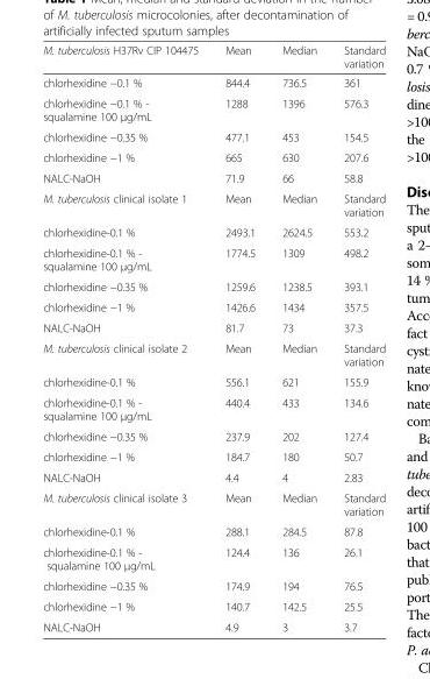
<table><thead><tr><td>M. tuberculosis H37Rv CIP 104475</td><td>Mean</td><td>Median</td><td>Standard variation</td></tr></thead><tbody><tr><td>chlorhexidine −0.1 %</td><td>844.4</td><td>736.5</td><td>361</td></tr><tr><td>chlorhexidine −0.1 % - squalamine 100 μg/mL</td><td>1288</td><td>1396</td><td>576.3</td></tr><tr><td>chlorhexidine −0.35 %</td><td>477.1</td><td>453</td><td>154.5</td></tr><tr><td>chlorhexidine −1 %</td><td>665</td><td>630</td><td>207.6</td></tr><tr><td>NALC-NaOH</td><td>71.9</td><td>66</td><td>58.8</td></tr><tr><td>M. tuberculosis clinical isolate 1</td><td>Mean</td><td>Median</td><td>Standard variation</td></tr><tr><td>chlorhexidine-0.1 %</td><td>2493.1</td><td>2624.5</td><td>553.2</td></tr><tr><td>chlorhexidine-0.1 % - squalamine 100 μg/mL</td><td>1774.5</td><td>1309</td><td>498.2</td></tr><tr><td>chlorhexidine −0.35 %</td><td>1259.6</td><td>1238.5</td><td>393.1</td></tr><tr><td>chlorhexidine −1 %</td><td>1426.6</td><td>1434</td><td>357.5</td></tr><tr><td>NALC-NaOH</td><td>81.7</td><td>73</td><td>37.3</td></tr><tr><td>M. tuberculosis clinical isolate 2</td><td>Mean</td><td>Median</td><td>Standard variation</td></tr><tr><td>chlorhexidine-0.1 %</td><td>556.1</td><td>621</td><td>155.9</td></tr><tr><td>chlorhexidine-0.1 % - squalamine 100 μg/mL</td><td>440.4</td><td>433</td><td>134.6</td></tr><tr><td>chlorhexidine −0.35 %</td><td>237.9</td><td>202</td><td>127.4</td></tr><tr><td>chlorhexidine −1 %</td><td>184.7</td><td>180</td><td>50.7</td></tr><tr><td>NALC-NaOH</td><td>4.4</td><td>4</td><td>2.83</td></tr><tr><td>M. tuberculosis clinical isolate 3</td><td>Mean</td><td>Median</td><td>Standard variation</td></tr><tr><td>chlorhexidine-0.1 %</td><td>288.1</td><td>284.5</td><td>87.8</td></tr><tr><td>chlorhexidine-0.1 % - squalamine 100 μg/mL</td><td>124.4</td><td>136</td><td>26.1</td></tr><tr><td>chlorhexidine −0.35 %</td><td>174.9</td><td>194</td><td>76.5</td></tr><tr><td>chlorhexidine −1 %</td><td>140.7</td><td>142.5</td><td>25.5</td></tr><tr><td>NALC-NaOH</td><td>4.9</td><td>3</td><td>3.7</td></tr></tbody></table>